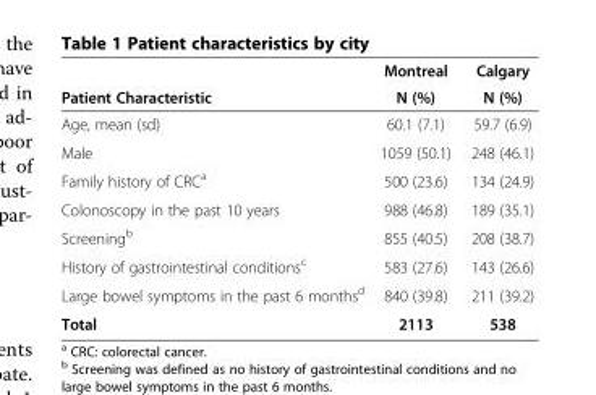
<table><thead><tr><td rowspan="2">Patient Characteristic</td><td rowspan="2">Montreal N (%)</td><td rowspan="2">Calgary N (%)</td></tr><tr></tr></thead><tbody><tr><td>Age, mean (sd)</td><td>60.1 (7.1)</td><td>59.7 (6.9)</td></tr><tr><td>Male</td><td>1059 (50.1)</td><td>248 (46.1)</td></tr><tr><td>Family history of CRC<sup>a</sup></td><td>500 (23.6)</td><td>134 (24.9)</td></tr><tr><td>Colonoscopy in the past 10 years</td><td>988 (46.8)</td><td>189 (35.1)</td></tr><tr><td>Screening<sup>b</sup></td><td>855 (40.5)</td><td>208 (38.7)</td></tr><tr><td>History of gastrointestinal conditions<sup>c</sup></td><td>583 (27.6)</td><td>143 (26.6)</td></tr><tr><td>Large bowel symptoms in the past 6 months<sup>d</sup></td><td>840 (39.8)</td><td>211 (39.2)</td></tr><tr><td>Total</td><td>2113</td><td>538</td></tr></tbody></table>